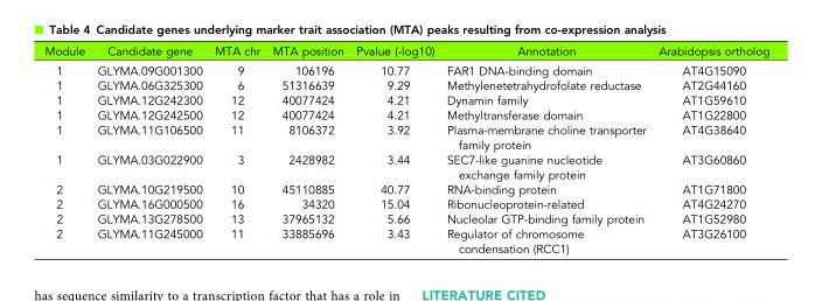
<table><thead><tr><td>Module</td><td>Candidate gene</td><td>MTA chr</td><td>MTA position</td><td>Pvalue (-log10)</td><td>Annotation</td><td>Arabidopsis ortholog</td></tr></thead><tbody><tr><td>1</td><td>GLYMA.09G001300</td><td>9</td><td>106196</td><td>10.77</td><td>FAR1 DNA-binding domain</td><td>AT4G15090</td></tr><tr><td>1</td><td>GLYMA.06G325300</td><td>6</td><td>51316639</td><td>9.29</td><td>Methylenetetrahydrofolate reductase</td><td>AT2G44160</td></tr><tr><td>1</td><td>GLYMA.12G242300</td><td>12</td><td>40077424</td><td>4.21</td><td>Dynamin family</td><td>AT1G59610</td></tr><tr><td>1</td><td>GLYMA.12G242500</td><td>12</td><td>40077424</td><td>4.21</td><td>Methyltransferase domain</td><td>AT1G22800</td></tr><tr><td>1</td><td>GLYMA.11G106500</td><td>11</td><td>8106372</td><td>3.92</td><td>Plasma-membrane choline transporter family protein</td><td>AT4G38640</td></tr><tr><td>1</td><td>GLYMA.03G022900</td><td>3</td><td>2428982</td><td>3.44</td><td>SEC7-like guanine nucleotide exchange family protein</td><td>AT3G60860</td></tr><tr><td>2</td><td>GLYMA.10G219500</td><td>10</td><td>45110885</td><td>40.77</td><td>RNA-binding protein</td><td>AT1G71800</td></tr><tr><td>2</td><td>GLYMA.16G000500</td><td>16</td><td>34320</td><td>15.04</td><td>Ribonucleoprotein-related</td><td>AT4G24270</td></tr><tr><td>2</td><td>GLYMA.13G278500</td><td>13</td><td>37965132</td><td>5.66</td><td>Nucleolar GTP-binding family protein</td><td>AT1G52980</td></tr><tr><td>2</td><td>GLYMA.11G245000</td><td>11</td><td>33885696</td><td>3.43</td><td>Regulator of chromosome condensation (RCC1)</td><td>AT3G26100</td></tr></tbody></table>